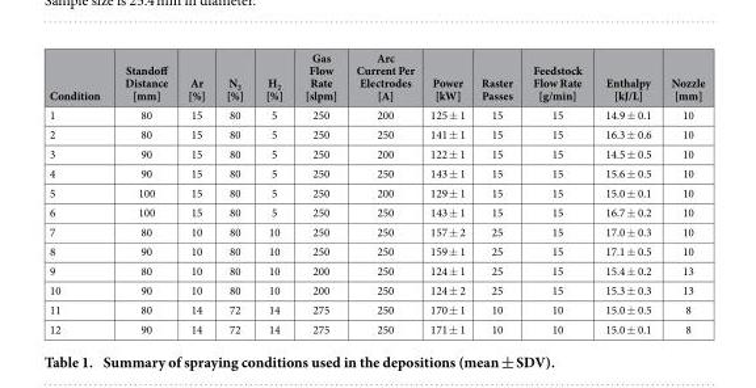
<table><thead><tr><td>Condition</td><td>Standoff Distance [mm]</td><td>Ar [%]</td><td>N<sub>2</sub> [%]</td><td>H<sub>2</sub> [%]</td><td>Gas Flow Rate [slpm]</td><td>Arc Current Per Electrodes [A]</td><td>Power [kW]</td><td>Raster Passes</td><td>Feedstock Flow Rate [g/min]</td><td>Enthalpy [kJ/L]</td><td>Nozzle [mm]</td></tr></thead><tbody><tr><td>1</td><td>80</td><td>15</td><td>80</td><td>5</td><td>250</td><td>200</td><td>125 ± 1</td><td>15</td><td>15</td><td>14.9 ± 0.1</td><td>10</td></tr><tr><td>2</td><td>80</td><td>15</td><td>80</td><td>5</td><td>250</td><td>250</td><td>141 ± 1</td><td>15</td><td>15</td><td>16.3 ± 0.6</td><td>10</td></tr><tr><td>3</td><td>90</td><td>15</td><td>80</td><td>5</td><td>250</td><td>200</td><td>122 ± 1</td><td>15</td><td>15</td><td>14.5 ± 0.5</td><td>10</td></tr><tr><td>4</td><td>90</td><td>15</td><td>80</td><td>5</td><td>250</td><td>250</td><td>143 ± 1</td><td>15</td><td>15</td><td>15.6 ± 0.5</td><td>10</td></tr><tr><td>5</td><td>100</td><td>15</td><td>80</td><td>5</td><td>250</td><td>200</td><td>129 ± 1</td><td>15</td><td>15</td><td>15.0 ± 0.1</td><td>10</td></tr><tr><td>6</td><td>100</td><td>15</td><td>80</td><td>5</td><td>250</td><td>250</td><td>143 ± 1</td><td>15</td><td>15</td><td>16.7 ± 0.2</td><td>10</td></tr><tr><td>7</td><td>80</td><td>10</td><td>80</td><td>10</td><td>250</td><td>250</td><td>157 ± 2</td><td>25</td><td>15</td><td>17.0 ± 0.3</td><td>10</td></tr><tr><td>8</td><td>90</td><td>10</td><td>80</td><td>10</td><td>250</td><td>250</td><td>159 ± 1</td><td>25</td><td>15</td><td>17.1 ± 0.5</td><td>10</td></tr><tr><td>9</td><td>80</td><td>10</td><td>80</td><td>10</td><td>200</td><td>250</td><td>124 ± 1</td><td>25</td><td>15</td><td>15.4 ± 0.2</td><td>13</td></tr><tr><td>10</td><td>90</td><td>10</td><td>80</td><td>10</td><td>200</td><td>250</td><td>124 ± 2</td><td>25</td><td>15</td><td>15.3 ± 0.3</td><td>13</td></tr><tr><td>11</td><td>80</td><td>14</td><td>72</td><td>14</td><td>275</td><td>250</td><td>170 ± 1</td><td>10</td><td>10</td><td>15.0 ± 0.5</td><td>8</td></tr><tr><td>12</td><td>90</td><td>14</td><td>72</td><td>14</td><td>275</td><td>250</td><td>171 ± 1</td><td>10</td><td>10</td><td>15.0 ± 0.1</td><td>8</td></tr></tbody></table>